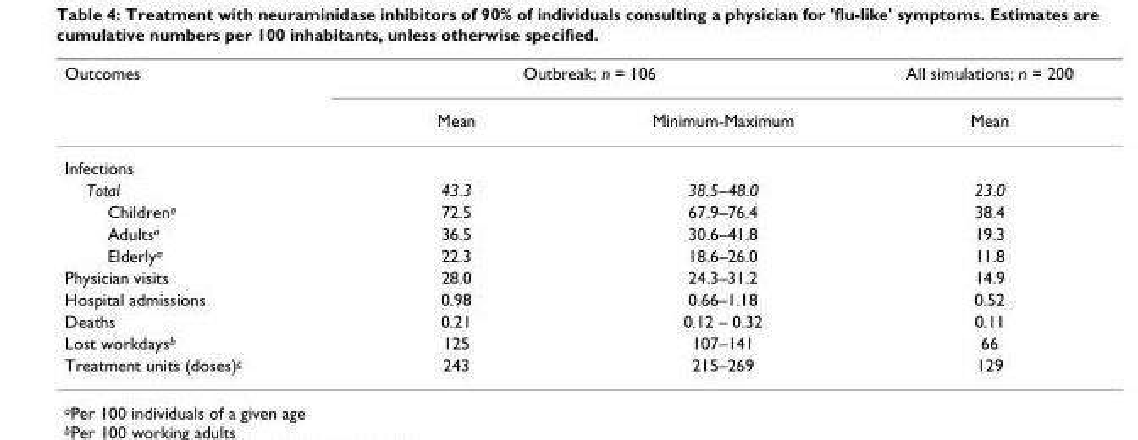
<table><thead><tr><td rowspan="2">Outcomes</td><td colspan="2">Outbreak; n = 106</td><td rowspan="2">All simulations; n = 200 Mean</td></tr><tr><td>Mean</td><td>Minimum-Maximum</td></tr></thead><tbody><tr><td colspan="4">Infections</td></tr><tr><td>Total</td><td>43.3</td><td>38.5–48.0</td><td>23.0</td></tr><tr><td>Childrena</td><td>72.5</td><td>67.9–76.4</td><td>38.4</td></tr><tr><td>Adultsa</td><td>36.5</td><td>30.6–41.8</td><td>19.3</td></tr><tr><td>Elderlya</td><td>22.3</td><td>18.6–26.0</td><td>11.8</td></tr><tr><td>Physician visits</td><td>28.0</td><td>24.3–31.2</td><td>14.9</td></tr><tr><td>Hospital admissions</td><td>0.98</td><td>0.66–1.18</td><td>0.52</td></tr><tr><td>Deaths</td><td>0.21</td><td>0.12 – 0.32</td><td>0.11</td></tr><tr><td>Lost workdaysb</td><td>125</td><td>107–141</td><td>66</td></tr><tr><td>Treatment units (doses)c</td><td>243</td><td>215–269</td><td>129</td></tr></tbody></table>